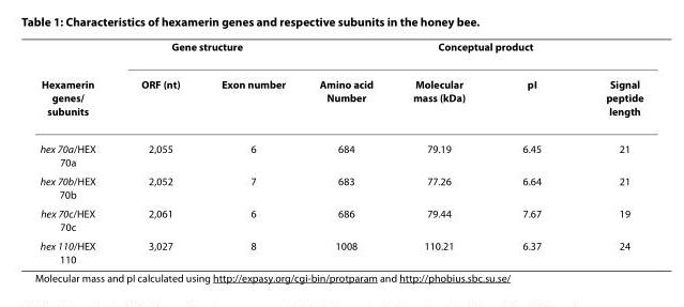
<table><thead><tr><td rowspan="2">Hexamerin genes/ subunits</td><td colspan="2">Gene structure</td><td rowspan="2">Amino acid Number</td><td colspan="2">Conceptual product</td><td rowspan="2">Signal peptide length</td></tr><tr><td>ORF (nt)</td><td>Exon number</td><td>Molecular mass (kDa)</td><td>pI</td></tr></thead><tbody><tr><td>hex 70a/HEX 70a</td><td>2,055</td><td>6</td><td>684</td><td>79.19</td><td>6.45</td><td>21</td></tr><tr><td>hex 70b/HEX 70b</td><td>2,052</td><td>7</td><td>683</td><td>77.26</td><td>6.64</td><td>21</td></tr><tr><td>hex 70c/HEX 70c</td><td>2,061</td><td>6</td><td>686</td><td>79.44</td><td>7.67</td><td>19</td></tr><tr><td>hex 110/HEX 110</td><td>3,027</td><td>8</td><td>1008</td><td>110.21</td><td>6.37</td><td>24</td></tr></tbody></table>